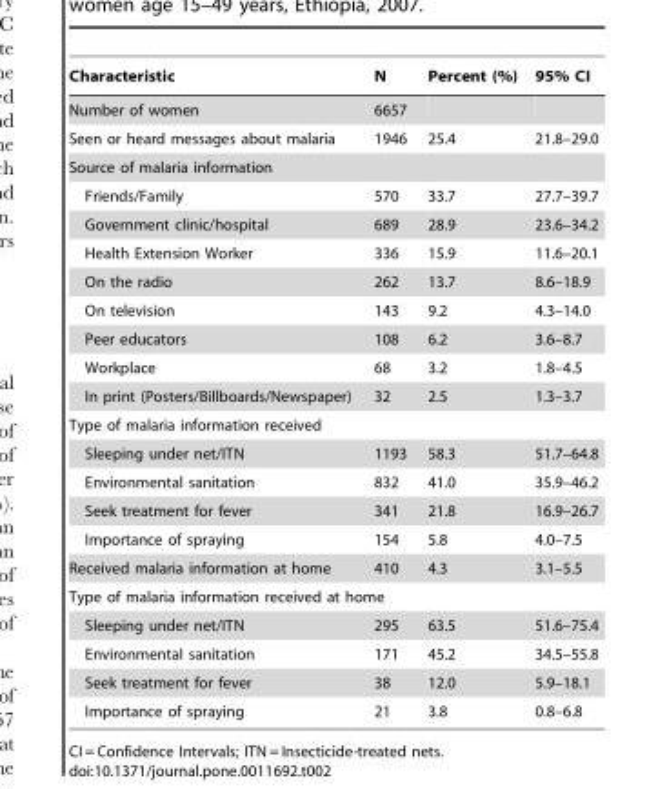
<table><thead><tr><td>Characteristic</td><td>N</td><td>Percent (%)</td><td>95% CI</td></tr></thead><tbody><tr><td>Number of women</td><td>6657</td><td></td><td></td></tr><tr><td>Seen or heard messages about malaria</td><td>1946</td><td>25.4</td><td>21.8–29.0</td></tr><tr><td colspan="4">Source of malaria information</td></tr><tr><td>Friends/Family</td><td>570</td><td>33.7</td><td>27.7–39.7</td></tr><tr><td>Government clinic/hospital</td><td>689</td><td>28.9</td><td>23.6–34.2</td></tr><tr><td>Health Extension Worker</td><td>336</td><td>15.9</td><td>11.6–20.1</td></tr><tr><td>On the radio</td><td>262</td><td>13.7</td><td>8.6–18.9</td></tr><tr><td>On television</td><td>143</td><td>9.2</td><td>4.3–14.0</td></tr><tr><td>Peer educators</td><td>108</td><td>6.2</td><td>3.6–8.7</td></tr><tr><td>Workplace</td><td>68</td><td>3.2</td><td>1.8–4.5</td></tr><tr><td>In print (Posters/Billboards/Newspaper)</td><td>32</td><td>2.5</td><td>1.3–3.7</td></tr><tr><td colspan="4">Type of malaria information received</td></tr><tr><td>Sleeping under net/ITN</td><td>1193</td><td>58.3</td><td>51.7–64.8</td></tr><tr><td>Environmental sanitation</td><td>832</td><td>41.0</td><td>35.9–46.2</td></tr><tr><td>Seek treatment for fever</td><td>341</td><td>21.8</td><td>16.9–26.7</td></tr><tr><td>Importance of spraying</td><td>154</td><td>5.8</td><td>4.0–7.5</td></tr><tr><td>Received malaria information at home</td><td>410</td><td>4.3</td><td>3.1–5.5</td></tr><tr><td colspan="4">Type of malaria information received at home</td></tr><tr><td>Sleeping under net/ITN</td><td>295</td><td>63.5</td><td>51.6–75.4</td></tr><tr><td>Environmental sanitation</td><td>171</td><td>45.2</td><td>34.5–55.8</td></tr><tr><td>Seek treatment for fever</td><td>38</td><td>12.0</td><td>5.9–18.1</td></tr><tr><td>Importance of spraying</td><td>21</td><td>3.8</td><td>0.8–6.8</td></tr></tbody></table>